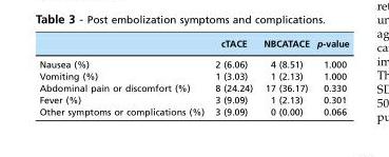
<table><thead><tr><td></td><td>cTACE</td><td>NBCATACE</td><td>p-value</td></tr></thead><tbody><tr><td>Nausea (%)</td><td>2 (6.06)</td><td>4 (8.51)</td><td>1.000</td></tr><tr><td>Vomiting (%)</td><td>1 (3.03)</td><td>1 (2.13)</td><td>1.000</td></tr><tr><td>Abdominal pain or discomfort (%)</td><td>8 (24.24)</td><td>17 (36.17)</td><td>0.330</td></tr><tr><td>Fever (%)</td><td>3 (9.09)</td><td>1 (2.13)</td><td>0.301</td></tr><tr><td>Other symptoms or complications (%)</td><td>3 (9.09)</td><td>0 (0.00)</td><td>0.066</td></tr></tbody></table>